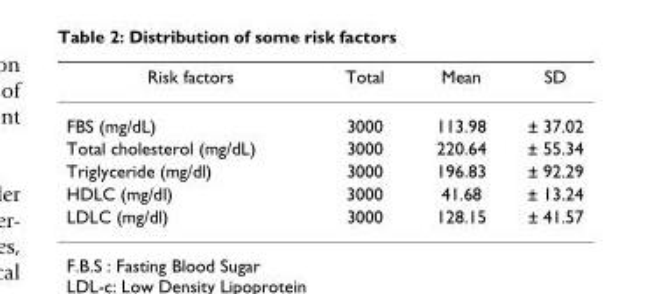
<table><thead><tr><td>Risk factors</td><td>Total</td><td>Mean</td><td>SD</td></tr></thead><tbody><tr><td>FBS (mg/dL)</td><td>3000</td><td>113.98</td><td>± 37.02</td></tr><tr><td>Total cholesterol (mg/dL)</td><td>3000</td><td>220.64</td><td>± 55.34</td></tr><tr><td>Triglyceride (mg/dl)</td><td>3000</td><td>196.83</td><td>± 92.29</td></tr><tr><td>HDLC (mg/dl)</td><td>3000</td><td>41.68</td><td>± 13.24</td></tr><tr><td>LDLC (mg/dl)</td><td>3000</td><td>128.15</td><td>± 41.57</td></tr></tbody></table>